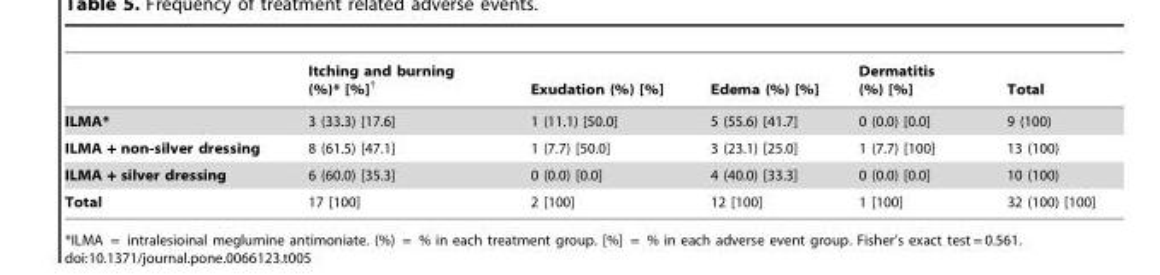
<table><thead><tr><td></td><td>Itching and burning (%)* [%]<sup>†</sup></td><td>Exudation (%) [%]</td><td>Edema (%) [%]</td><td>Dermatitis (%) [%]</td><td>Total</td></tr></thead><tbody><tr><td>ILMA*</td><td>3 (33.3) [17.6]</td><td>1 (11.1) [50.0]</td><td>5 (55.6) [41.7]</td><td>0 (0.0) [0.0]</td><td>9 (100)</td></tr><tr><td>ILMA + non-silver dressing</td><td>8 (61.5) [47.1]</td><td>1 (7.7) [50.0]</td><td>3 (23.1) [25.0]</td><td>1 (7.7) [100]</td><td>13 (100)</td></tr><tr><td>ILMA + silver dressing</td><td>6 (60.0) [35.3]</td><td>0 (0.0) [0.0]</td><td>4 (40.0) [33.3]</td><td>0 (0.0) [0.0]</td><td>10 (100)</td></tr><tr><td>Total</td><td>17 [100]</td><td>2 [100]</td><td>12 [100]</td><td>1 [100]</td><td>32 (100) [100]</td></tr></tbody></table>